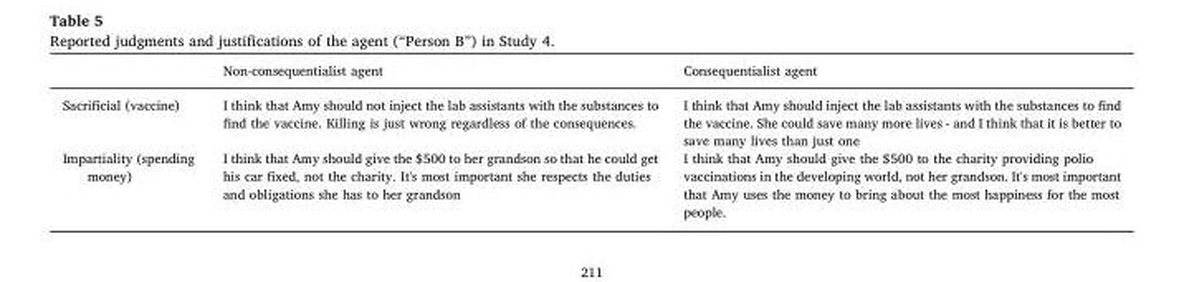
<table><thead><tr><td></td><td>Non-consequentialist agent</td><td>Consequentialist agent</td></tr></thead><tbody><tr><td>Sacrificial (vaccine)</td><td>I think that Amy should not inject the lab assistants with the substances to find the vaccine. Killing is just wrong regardless of the consequences.</td><td>I think that Amy should inject the lab assistants with the substances to find the vaccine. She could save many more lives - and I think that it is better to save many lives than just one</td></tr><tr><td>Impartiality (spending money)</td><td>I think that Amy should give the $500 to her grandson so that he could get his car fixed, not the charity. It&#x27;s most important she respects the duties and obligations she has to her grandson</td><td>I think that Amy should give the $500 to the charity providing polio vaccinations in the developing world, not her grandson. It&#x27;s most important that Amy uses the money to bring about the most happiness for the most people.</td></tr></tbody></table>